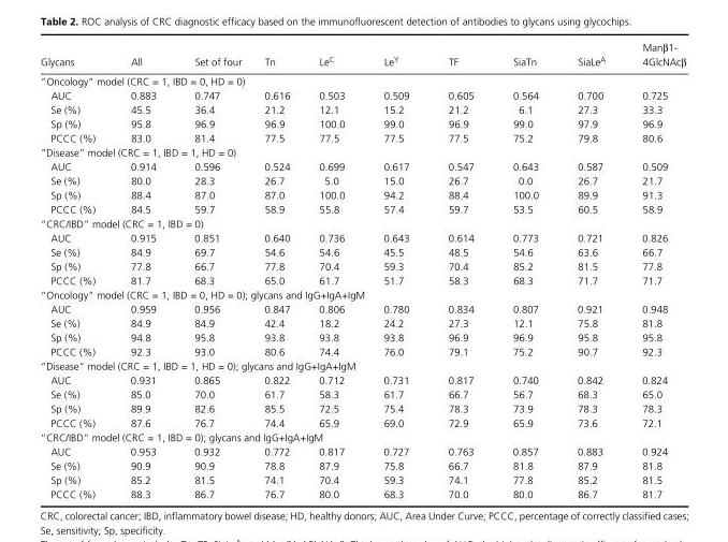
<table><thead><tr><td>Glycans</td><td>All</td><td>Set of four</td><td>Tn</td><td>Le<sup>C</sup></td><td>Le<sup>Y</sup></td><td>TF</td><td>SiaTn</td><td>SiaLe<sup>A</sup></td><td>Manβ1- 4GlcNAcβ</td></tr></thead><tbody><tr><td colspan="10">“Oncology” model (CRC = 1, IBD = 0, HD = 0)</td></tr><tr><td>AUC</td><td>0.883</td><td>0.747</td><td>0.616</td><td>0.503</td><td>0.509</td><td>0.605</td><td>0.564</td><td>0.700</td><td>0.725</td></tr><tr><td>Se (%)</td><td>45.5</td><td>36.4</td><td>21.2</td><td>12.1</td><td>15.2</td><td>21.2</td><td>6.1</td><td>27.3</td><td>33.3</td></tr><tr><td>Sp (%)</td><td>95.8</td><td>96.9</td><td>96.9</td><td>100.0</td><td>99.0</td><td>96.9</td><td>99.0</td><td>97.9</td><td>96.9</td></tr><tr><td>PCCC (%)</td><td>83.0</td><td>81.4</td><td>77.5</td><td>77.5</td><td>77.5</td><td>77.5</td><td>75.2</td><td>79.8</td><td>80.6</td></tr><tr><td colspan="10">“Disease” model (CRC = 1, IBD = 1, HD = 0)</td></tr><tr><td>AUC</td><td>0.914</td><td>0.596</td><td>0.524</td><td>0.699</td><td>0.617</td><td>0.547</td><td>0.643</td><td>0.587</td><td>0.509</td></tr><tr><td>Se (%)</td><td>80.0</td><td>28.3</td><td>26.7</td><td>5.0</td><td>15.0</td><td>26.7</td><td>0.0</td><td>26.7</td><td>21.7</td></tr><tr><td>Sp (%)</td><td>88.4</td><td>87.0</td><td>87.0</td><td>100.0</td><td>94.2</td><td>88.4</td><td>100.0</td><td>89.9</td><td>91.3</td></tr><tr><td>PCCC (%)</td><td>84.5</td><td>59.7</td><td>58.9</td><td>55.8</td><td>57.4</td><td>59.7</td><td>53.5</td><td>60.5</td><td>58.9</td></tr><tr><td colspan="10">“CRC/IBD” model (CRC = 1, IBD = 0)</td></tr><tr><td>AUC</td><td>0.915</td><td>0.851</td><td>0.640</td><td>0.736</td><td>0.643</td><td>0.614</td><td>0.773</td><td>0.721</td><td>0.826</td></tr><tr><td>Se (%)</td><td>84.9</td><td>69.7</td><td>54.6</td><td>54.6</td><td>45.5</td><td>48.5</td><td>54.6</td><td>63.6</td><td>66.7</td></tr><tr><td>Sp (%)</td><td>77.8</td><td>66.7</td><td>77.8</td><td>70.4</td><td>59.3</td><td>70.4</td><td>85.2</td><td>81.5</td><td>77.8</td></tr><tr><td>PCCC (%)</td><td>81.7</td><td>68.3</td><td>65.0</td><td>61.7</td><td>51.7</td><td>58.3</td><td>68.3</td><td>71.7</td><td>71.7</td></tr><tr><td colspan="10">“Oncology” model (CRC = 1, IBD = 0, HD = 0); glycans and IgG+IgA+IgM</td></tr><tr><td>AUC</td><td>0.959</td><td>0.956</td><td>0.847</td><td>0.806</td><td>0.780</td><td>0.834</td><td>0.807</td><td>0.921</td><td>0.948</td></tr><tr><td>Se (%)</td><td>84.9</td><td>84.9</td><td>42.4</td><td>18.2</td><td>24.2</td><td>27.3</td><td>12.1</td><td>75.8</td><td>81.8</td></tr><tr><td>Sp (%)</td><td>94.8</td><td>95.8</td><td>93.8</td><td>93.8</td><td>93.8</td><td>96.9</td><td>96.9</td><td>95.8</td><td>95.8</td></tr><tr><td>PCCC (%)</td><td>92.3</td><td>93.0</td><td>80.6</td><td>74.4</td><td>76.0</td><td>79.1</td><td>75.2</td><td>90.7</td><td>92.3</td></tr><tr><td colspan="10">“Disease” model (CRC = 1, IBD = 1, HD = 0); glycans and IgG+IgA+IgM</td></tr><tr><td>AUC</td><td>0.931</td><td>0.865</td><td>0.822</td><td>0.712</td><td>0.731</td><td>0.817</td><td>0.740</td><td>0.842</td><td>0.824</td></tr><tr><td>Se (%)</td><td>85.0</td><td>70.0</td><td>61.7</td><td>58.3</td><td>61.7</td><td>66.7</td><td>56.7</td><td>68.3</td><td>65.0</td></tr><tr><td>Sp (%)</td><td>89.9</td><td>82.6</td><td>85.5</td><td>72.5</td><td>75.4</td><td>78.3</td><td>73.9</td><td>78.3</td><td>78.3</td></tr><tr><td>PCCC (%)</td><td>87.6</td><td>76.7</td><td>74.4</td><td>65.9</td><td>69.0</td><td>72.9</td><td>65.9</td><td>73.6</td><td>72.1</td></tr><tr><td colspan="10">“CRC/IBD” model (CRC = 1, IBD = 0); glycans and IgG+IgA+IgM</td></tr><tr><td>AUC</td><td>0.953</td><td>0.932</td><td>0.772</td><td>0.817</td><td>0.727</td><td>0.763</td><td>0.857</td><td>0.883</td><td>0.924</td></tr><tr><td>Se (%)</td><td>90.9</td><td>90.9</td><td>78.8</td><td>87.9</td><td>75.8</td><td>66.7</td><td>81.8</td><td>87.9</td><td>81.8</td></tr><tr><td>Sp (%)</td><td>85.2</td><td>81.5</td><td>74.1</td><td>70.4</td><td>59.3</td><td>74.1</td><td>77.8</td><td>85.2</td><td>81.5</td></tr><tr><td>PCCC (%)</td><td>88.3</td><td>86.7</td><td>76.7</td><td>80.0</td><td>68.3</td><td>70.0</td><td>80.0</td><td>86.7</td><td>81.7</td></tr></tbody></table>